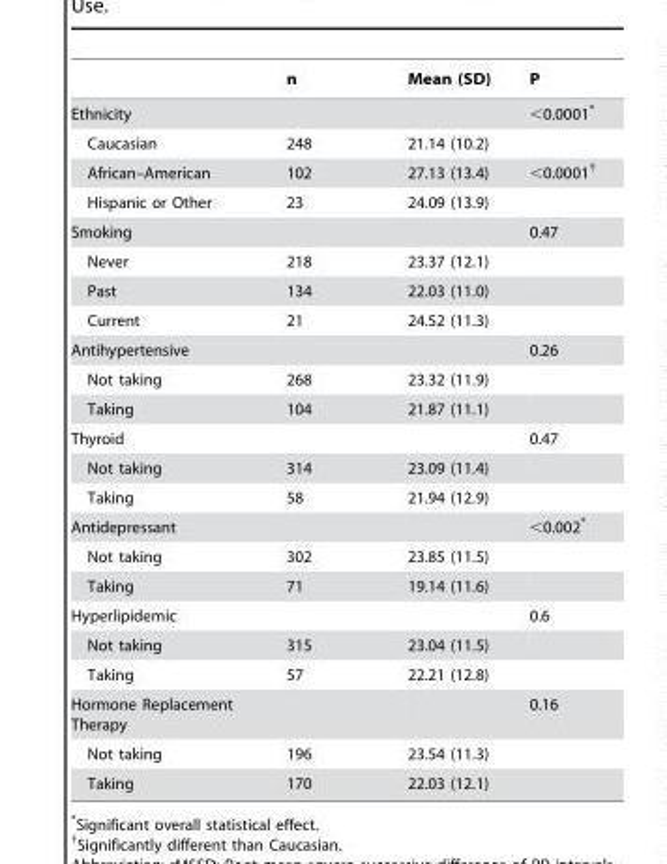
<table><thead><tr><td></td><td>n</td><td>Mean (SD)</td><td>P</td></tr></thead><tbody><tr><td>Ethnicity</td><td></td><td></td><td>&lt;0.0001*</td></tr><tr><td>Caucasian</td><td>248</td><td>21.14 (10.2)</td><td></td></tr><tr><td>African–American</td><td>102</td><td>27.13 (13.4)</td><td>&lt;0.0001†</td></tr><tr><td>Hispanic or Other</td><td>23</td><td>24.09 (13.9)</td><td></td></tr><tr><td>Smoking</td><td></td><td></td><td>0.47</td></tr><tr><td>Never</td><td>218</td><td>23.37 (12.1)</td><td></td></tr><tr><td>Past</td><td>134</td><td>22.03 (11.0)</td><td></td></tr><tr><td>Current</td><td>21</td><td>24.52 (11.3)</td><td></td></tr><tr><td>Antihypertensive</td><td></td><td></td><td>0.26</td></tr><tr><td>Not taking</td><td>268</td><td>23.32 (11.9)</td><td></td></tr><tr><td>Taking</td><td>104</td><td>21.87 (11.1)</td><td></td></tr><tr><td>Thyroid</td><td></td><td></td><td>0.47</td></tr><tr><td>Not taking</td><td>314</td><td>23.09 (11.4)</td><td></td></tr><tr><td>Taking</td><td>58</td><td>21.94 (12.9)</td><td></td></tr><tr><td>Antidepressant</td><td></td><td></td><td>&lt;0.002*</td></tr><tr><td>Not taking</td><td>302</td><td>23.85 (11.5)</td><td></td></tr><tr><td>Taking</td><td>71</td><td>19.14 (11.6)</td><td></td></tr><tr><td>Hyperlipidemic</td><td></td><td></td><td>0.6</td></tr><tr><td>Not taking</td><td>315</td><td>23.04 (11.5)</td><td></td></tr><tr><td>Taking</td><td>57</td><td>22.21 (12.8)</td><td></td></tr><tr><td>Hormone Replacement Therapy</td><td></td><td></td><td>0.16</td></tr><tr><td>Not taking</td><td>196</td><td>23.54 (11.3)</td><td></td></tr><tr><td>Taking</td><td>170</td><td>22.03 (12.1)</td><td></td></tr></tbody></table>